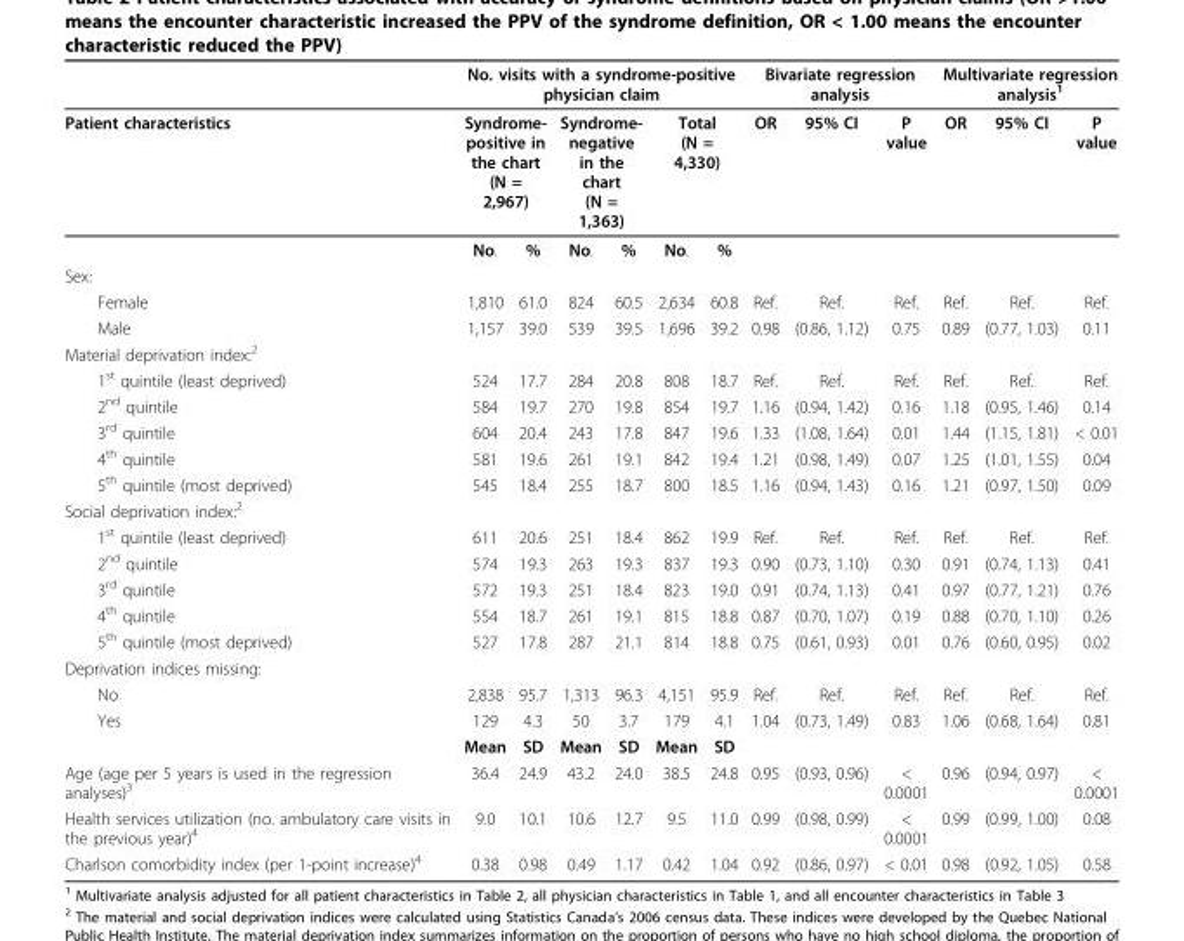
<table><thead><tr><td rowspan="3">Patient characteristics</td><td colspan="6">No. visits with a syndrome-positive physician claim</td><td colspan="3">Bivariate regression analysis</td><td colspan="3">Multivariate regression analysis<sup>1</sup></td></tr><tr><td colspan="2">Syndrome- positive in the chart (N = 2,967)</td><td colspan="2">Syndrome- negative in the chart (N = 1,363)</td><td colspan="2">Total (N = 4,330)</td><td rowspan="2">OR</td><td rowspan="2">95% CI</td><td rowspan="2">P value</td><td rowspan="2">OR</td><td rowspan="2">95% CI</td><td rowspan="2">P value</td></tr><tr><td>No.</td><td>%</td><td>No.</td><td>%</td><td>No.</td><td>%</td></tr></thead><tbody><tr><td colspan="13">Sex:</td></tr><tr><td>Female</td><td>1,810</td><td>61.0</td><td>824</td><td>60.5</td><td>2,634</td><td>60.8</td><td>Ref.</td><td>Ref.</td><td>Ref.</td><td>Ref.</td><td>Ref.</td><td>Ref.</td></tr><tr><td>Male</td><td>1,157</td><td>39.0</td><td>539</td><td>39.5</td><td>1,696</td><td>39.2</td><td>0.98</td><td>(0.86, 1.12)</td><td>0.75</td><td>0.89</td><td>(0.77, 1.03)</td><td>0.11</td></tr><tr><td colspan="13">Material deprivation index:<sup>2</sup></td></tr><tr><td>1<sup>st</sup> quintile (least deprived)</td><td>524</td><td>17.7</td><td>284</td><td>20.8</td><td>808</td><td>18.7</td><td>Ref.</td><td>Ref.</td><td>Ref.</td><td>Ref.</td><td>Ref.</td><td>Ref.</td></tr><tr><td>2<sup>nd</sup> quintile</td><td>584</td><td>19.7</td><td>270</td><td>19.8</td><td>854</td><td>19.7</td><td>1.16</td><td>(0.94, 1.42)</td><td>0.16</td><td>1.18</td><td>(0.95, 1.46)</td><td>0.14</td></tr><tr><td>3<sup>rd</sup> quintile</td><td>604</td><td>20.4</td><td>243</td><td>17.8</td><td>847</td><td>19.6</td><td>1.33</td><td>(1.08, 1.64)</td><td>0.01</td><td>1.44</td><td>(1.15, 1.81)</td><td>&lt; 0.01</td></tr><tr><td>4<sup>th</sup> quintile</td><td>581</td><td>19.6</td><td>261</td><td>19.1</td><td>842</td><td>19.4</td><td>1.21</td><td>(0.98, 1.49)</td><td>0.07</td><td>1.25</td><td>(1.01, 1.55)</td><td>0.04</td></tr><tr><td>5<sup>th</sup> quintile (most deprived)</td><td>545</td><td>18.4</td><td>255</td><td>18.7</td><td>800</td><td>18.5</td><td>1.16</td><td>(0.94, 1.43)</td><td>0.16</td><td>1.21</td><td>(0.97, 1.50)</td><td>0.09</td></tr><tr><td colspan="13">Social deprivation index:<sup>2</sup></td></tr><tr><td>1<sup>st</sup> quintile (least deprived)</td><td>611</td><td>20.6</td><td>251</td><td>18.4</td><td>862</td><td>19.9</td><td>Ref.</td><td>Ref.</td><td>Ref.</td><td>Ref.</td><td>Ref.</td><td>Ref.</td></tr><tr><td>2<sup>nd</sup> quintile</td><td>574</td><td>19.3</td><td>263</td><td>19.3</td><td>837</td><td>19.3</td><td>0.90</td><td>(0.73, 1.10)</td><td>0.30</td><td>0.91</td><td>(0.74, 1.13)</td><td>0.41</td></tr><tr><td>3<sup>rd</sup> quintile</td><td>572</td><td>19.3</td><td>251</td><td>18.4</td><td>823</td><td>19.0</td><td>0.91</td><td>(0.74, 1.13)</td><td>0.41</td><td>0.97</td><td>(0.77, 1.21)</td><td>0.76</td></tr><tr><td>4<sup>th</sup> quintile</td><td>554</td><td>18.7</td><td>261</td><td>19.1</td><td>815</td><td>18.8</td><td>0.87</td><td>(0.70, 1.07)</td><td>0.19</td><td>0.88</td><td>(0.70, 1.10)</td><td>0.26</td></tr><tr><td>5<sup>th</sup> quintile (most deprived)</td><td>527</td><td>17.8</td><td>287</td><td>21.1</td><td>814</td><td>18.8</td><td>0.75</td><td>(0.61, 0.93)</td><td>0.01</td><td>0.76</td><td>(0.60, 0.95)</td><td>0.02</td></tr><tr><td colspan="13">Deprivation indices missing:</td></tr><tr><td>No</td><td>2,838</td><td>95.7</td><td>1,313</td><td>96.3</td><td>4,151</td><td>95.9</td><td>Ref.</td><td>Ref.</td><td>Ref.</td><td>Ref.</td><td>Ref.</td><td>Ref.</td></tr><tr><td rowspan="2">Yes</td><td>129</td><td>4.3</td><td>50</td><td>3.7</td><td>179</td><td>4.1</td><td>1.04</td><td>(0.73, 1.49)</td><td>0.83</td><td>1.06</td><td>(0.68, 1.64)</td><td>0.81</td></tr><tr><td>Mean</td><td>SD</td><td>Mean</td><td>SD</td><td>Mean</td><td>SD</td><td></td><td></td><td></td><td></td><td></td><td></td></tr><tr><td>Age (age per 5 years is used in the regression analyses)<sup>3</sup></td><td>36.4</td><td>24.9</td><td>43.2</td><td>24.0</td><td>38.5</td><td>24.8</td><td>0.95</td><td>(0.93, 0.96)</td><td>&lt; 0.0001</td><td>0.96</td><td>(0.94, 0.97)</td><td>&lt; 0.0001</td></tr><tr><td>Health services utilization (no. ambulatory care visits in the previous year)<sup>4</sup></td><td>9.0</td><td>10.1</td><td>10.6</td><td>12.7</td><td>9.5</td><td>11.0</td><td>0.99</td><td>(0.98, 0.99)</td><td>&lt; 0.0001</td><td>0.99</td><td>(0.99, 1.00)</td><td>0.08</td></tr><tr><td>Charlson comorbidity index (per 1-point increase)<sup>4</sup></td><td>0.38</td><td>0.98</td><td>0.49</td><td>1.17</td><td>0.42</td><td>1.04</td><td>0.92</td><td>(0.86, 0.97)</td><td>&lt; 0.01</td><td>0.98</td><td>(0.92, 1.05)</td><td>0.58</td></tr></tbody></table>